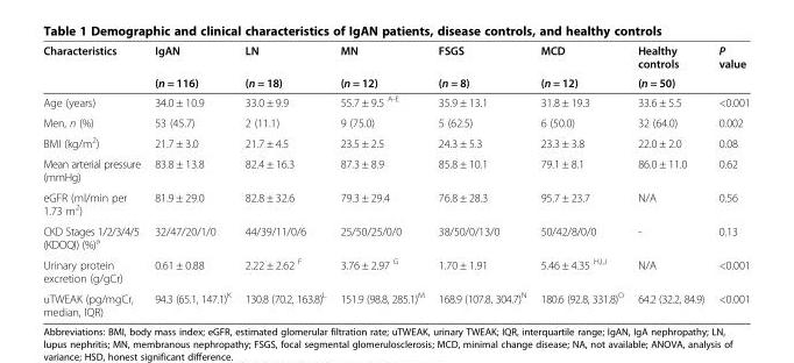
<table><thead><tr><td rowspan="2">Characteristics</td><td rowspan="2">IgAN (n = 116)</td><td rowspan="2">LN (n = 18)</td><td rowspan="2">MN (n = 12)</td><td rowspan="2">FSGS (n = 8)</td><td rowspan="2">MCD (n = 12)</td><td rowspan="2">Healthy controls (n = 50)</td><td rowspan="2">P value</td></tr><tr></tr></thead><tbody><tr><td>Age (years)</td><td>34.0 ± 10.9</td><td>33.0 ± 9.9</td><td>55.7 ± 9.5 <sup>A-E</sup></td><td>35.9 ± 13.1</td><td>31.8 ± 19.3</td><td>33.6 ± 5.5</td><td>&lt;0.001</td></tr><tr><td>Men, n (%)</td><td>53 (45.7)</td><td>2 (11.1)</td><td>9 (75.0)</td><td>5 (62.5)</td><td>6 (50.0)</td><td>32 (64.0)</td><td>0.002</td></tr><tr><td>BMI (kg/m<sup>2</sup>)</td><td>21.7 ± 3.0</td><td>21.7 ± 4.5</td><td>23.5 ± 2.5</td><td>24.3 ± 5.3</td><td>23.3 ± 3.8</td><td>22.0 ± 2.0</td><td>0.08</td></tr><tr><td>Mean arterial pressure (mmHg)</td><td>83.8 ± 13.8</td><td>82.4 ± 16.3</td><td>87.3 ± 8.9</td><td>85.8 ± 10.1</td><td>79.1 ± 8.1</td><td>86.0 ± 11.0</td><td>0.62</td></tr><tr><td>eGFR (ml/min per 1.73 m<sup>2</sup>)</td><td>81.9 ± 29.0</td><td>82.8 ± 32.6</td><td>79.3 ± 29.4</td><td>76.8 ± 28.3</td><td>95.7 ± 23.7</td><td>N/A</td><td>0.56</td></tr><tr><td>CKD Stages 1/2/3/4/5 (KDOQI) (%)<sup>a</sup></td><td>32/47/20/1/0</td><td>44/39/11/0/6</td><td>25/50/25/0/0</td><td>38/50/0/13/0</td><td>50/42/8/0/0</td><td>-</td><td>0.13</td></tr><tr><td>Urinary protein excretion (g/gCr)</td><td>0.61 ± 0.88</td><td>2.22 ± 2.62 <sup>F</sup></td><td>3.76 ± 2.97 <sup>G</sup></td><td>1.70 ± 1.91</td><td>5.46 ± 4.35 <sup>H,I,J</sup></td><td>N/A</td><td>&lt;0.001</td></tr><tr><td>uTWEAK (pg/mgCr, median, IQR)</td><td>94.3 (65.1, 147.1)<sup>K</sup></td><td>130.8 (70.2, 163.8)<sup>L</sup></td><td>151.9 (98.8, 285.1)<sup>M</sup></td><td>168.9 (107.8, 304.7)<sup>N</sup></td><td>180.6 (92.8, 331.8)<sup>O</sup></td><td>64.2 (32.2, 84.9)</td><td>&lt;0.001</td></tr></tbody></table>